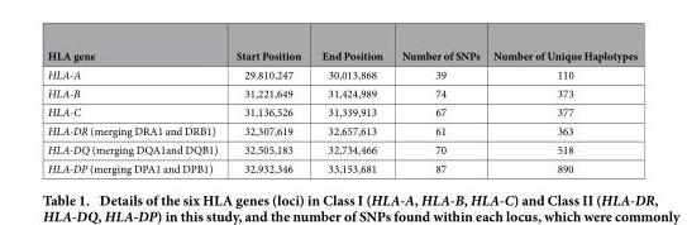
<table><thead><tr><td>HLA gene</td><td>Start Position</td><td>End Position</td><td>Number of SNPs</td><td>Number of Unique Haplotypes</td></tr></thead><tbody><tr><td>HLA-A</td><td>29,810,247</td><td>30,013,868</td><td>39</td><td>110</td></tr><tr><td>HLA-B</td><td>31,221,649</td><td>31,424,989</td><td>74</td><td>373</td></tr><tr><td>HLA-C</td><td>31,136,526</td><td>31,339,913</td><td>67</td><td>377</td></tr><tr><td>HLA-DR (merging DRA1 and DRB1)</td><td>32,307,619</td><td>32,657,613</td><td>61</td><td>363</td></tr><tr><td>HLA-DQ (merging DQA1and DQB1)</td><td>32,505,183</td><td>32,734,466</td><td>70</td><td>518</td></tr><tr><td>HLA-DP (merging DPA1 and DPB1)</td><td>32,932,346</td><td>33,153,681</td><td>87</td><td>890</td></tr></tbody></table>